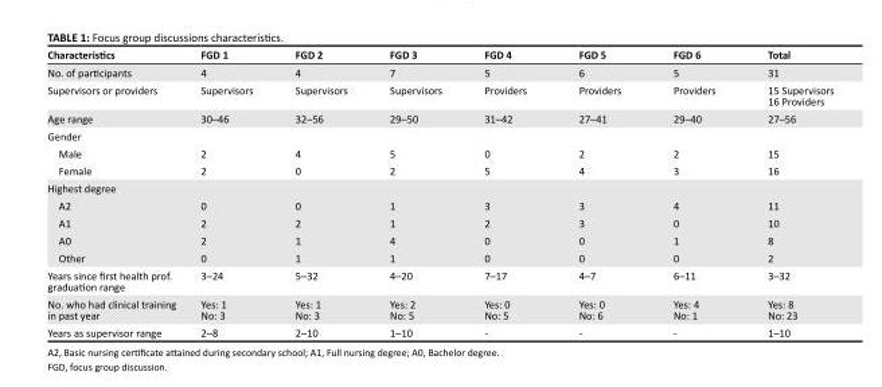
<table><thead><tr><td>Characteristics</td><td>FGD 1</td><td>FGD 2</td><td>FGD 3</td><td>FGD 4</td><td>FGD 5</td><td>FGD 6</td><td>Total</td></tr></thead><tbody><tr><td>No. of participants</td><td>4</td><td>4</td><td>7</td><td>5</td><td>6</td><td>5</td><td>31</td></tr><tr><td>Supervisors or providers</td><td>Supervisors</td><td>Supervisors</td><td>Supervisors</td><td>Providers</td><td>Providers</td><td>Providers</td><td>15 Supervisors 16 Providers</td></tr><tr><td>Age range</td><td>30–46</td><td>32–56</td><td>29–50</td><td>31–42</td><td>27–41</td><td>29–40</td><td>27–56</td></tr><tr><td colspan="8">Gender</td></tr><tr><td>Male</td><td>2</td><td>4</td><td>5</td><td>0</td><td>2</td><td>2</td><td>15</td></tr><tr><td>Female</td><td>2</td><td>0</td><td>2</td><td>5</td><td>4</td><td>3</td><td>16</td></tr><tr><td colspan="8">Highest degree</td></tr><tr><td>A2</td><td>0</td><td>0</td><td>1</td><td>3</td><td>3</td><td>4</td><td>11</td></tr><tr><td>A1</td><td>2</td><td>2</td><td>1</td><td>2</td><td>3</td><td>0</td><td>10</td></tr><tr><td>A0</td><td>2</td><td>1</td><td>4</td><td>0</td><td>0</td><td>1</td><td>8</td></tr><tr><td>Other</td><td>0</td><td>1</td><td>1</td><td>0</td><td>0</td><td>0</td><td>2</td></tr><tr><td>Years since first health prof. graduation range</td><td>3–24</td><td>5–32</td><td>4–20</td><td>7–17</td><td>4–7</td><td>6–11</td><td>3–32</td></tr><tr><td>No. who had clinical training in past year</td><td>Yes: 1 No: 3</td><td>Yes: 1 No: 3</td><td>Yes: 2 No: 5</td><td>Yes: 0 No: 5</td><td>Yes: 0 No: 6</td><td>Yes: 4 No: 1</td><td>Yes: 8 No: 23</td></tr><tr><td>Years as supervisor range</td><td>2–8</td><td>2–10</td><td>1–10</td><td>-</td><td>-</td><td>-</td><td>1–10</td></tr></tbody></table>